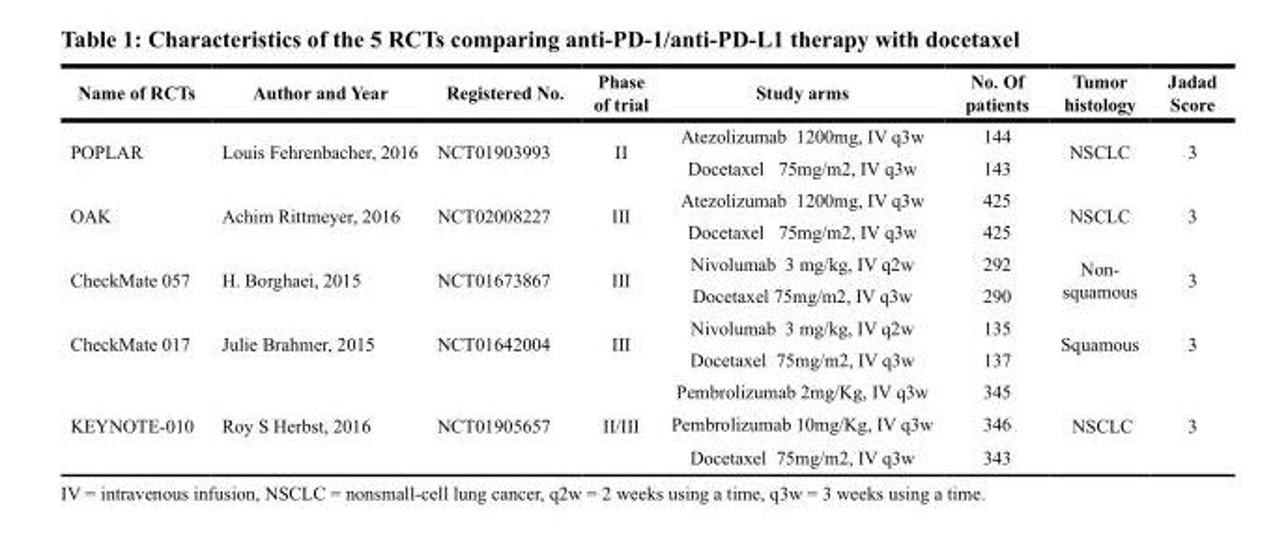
<table><thead><tr><td>Name of RCTs</td><td>Author and Year</td><td>Registered No.</td><td>Phase of trial</td><td>Study arms</td><td>No. Of patients</td><td>Tumor histology</td><td>Jadad Score</td></tr></thead><tbody><tr><td rowspan="2">POPLAR</td><td rowspan="2">Louis Fehrenbacher, 2016</td><td rowspan="2">NCT01903993</td><td rowspan="2">II</td><td>Atezolizumab 1200mg, IV q3w</td><td>144</td><td rowspan="2">NSCLC</td><td rowspan="2">3</td></tr><tr><td>Docetaxel 75mg/m2, IV q3w</td><td>143</td></tr><tr><td rowspan="2">OAK</td><td rowspan="2">Achim Rittmeyer, 2016</td><td rowspan="2">NCT02008227</td><td rowspan="2">III</td><td>Atezolizumab 1200mg, IV q3w</td><td>425</td><td rowspan="2">NSCLC</td><td rowspan="2">3</td></tr><tr><td>Docetaxel 75mg/m2, IV q3w</td><td>425</td></tr><tr><td rowspan="2">CheckMate 057</td><td rowspan="2">H. Borghaei, 2015</td><td rowspan="2">NCT01673867</td><td rowspan="2">III</td><td>Nivolumab 3 mg/kg, IV q2w</td><td>292</td><td rowspan="2">Non- squamous</td><td rowspan="2">3</td></tr><tr><td>Docetaxel 75mg/m2, IV q3w</td><td>290</td></tr><tr><td rowspan="2">CheckMate 017</td><td rowspan="2">Julie Brahmer, 2015</td><td rowspan="2">NCT01642004</td><td rowspan="2">III</td><td>Nivolumab 3 mg/kg, IV q2w</td><td>135</td><td rowspan="2">Squamous</td><td rowspan="2">3</td></tr><tr><td>Docetaxel 75mg/m2, IV q3w</td><td>137</td></tr><tr><td rowspan="3">KEYNOTE-010</td><td rowspan="3">Roy S Herbst, 2016</td><td rowspan="3">NCT01905657</td><td rowspan="3">II/III</td><td>Pembrolizumab 2mg/Kg, IV q3w</td><td>345</td><td rowspan="3">NSCLC</td><td rowspan="3">3</td></tr><tr><td>Pembrolizumab 10mg/Kg, IV q3w</td><td>346</td></tr><tr><td>Docetaxel 75mg/m2, IV q3w</td><td>343</td></tr></tbody></table>